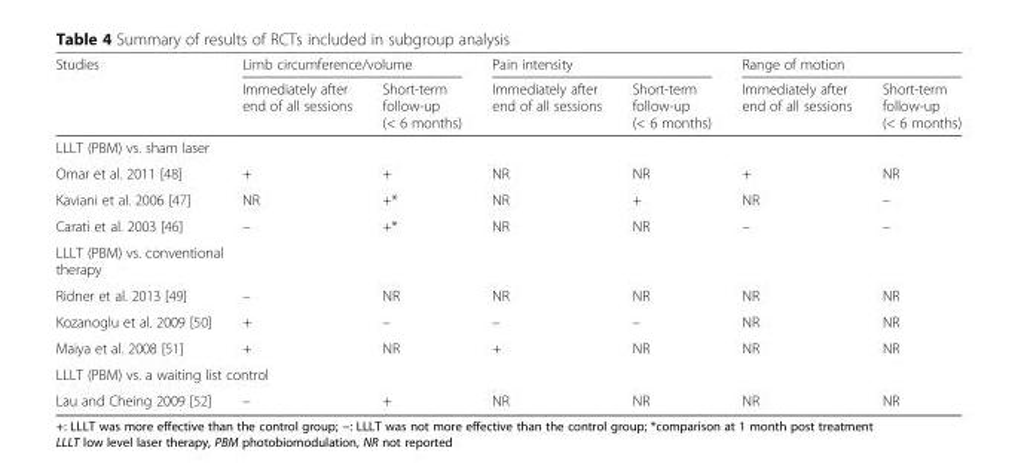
<table><thead><tr><td rowspan="2">Studies</td><td colspan="2">Limb circumference/volume</td><td colspan="2">Pain intensity</td><td colspan="2">Range of motion</td></tr><tr><td>Immediately after end of all sessions</td><td>Short-term follow-up (&lt; 6 months)</td><td>Immediately after end of all sessions</td><td>Short-term follow-up (&lt; 6 months)</td><td>Immediately after end of all sessions</td><td>Short-term follow-up (&lt; 6 months)</td></tr></thead><tbody><tr><td colspan="7">LLLT (PBM) vs. sham laser</td></tr><tr><td>Omar et al. 2011 [48]</td><td>+</td><td>+</td><td>NR</td><td>NR</td><td>+</td><td>NR</td></tr><tr><td>Kaviani et al. 2006 [47]</td><td>NR</td><td>+*</td><td>NR</td><td>+</td><td>NR</td><td>–</td></tr><tr><td>Carati et al. 2003 [46]</td><td>–</td><td>+*</td><td>NR</td><td>NR</td><td>–</td><td>–</td></tr><tr><td colspan="7">LLLT (PBM) vs. conventional therapy</td></tr><tr><td>Ridner et al. 2013 [49]</td><td>–</td><td>NR</td><td>NR</td><td>NR</td><td>NR</td><td>NR</td></tr><tr><td>Kozanoglu et al. 2009 [50]</td><td>+</td><td>–</td><td>–</td><td>–</td><td>NR</td><td>NR</td></tr><tr><td>Maiya et al. 2008 [51]</td><td>+</td><td>NR</td><td>+</td><td>NR</td><td>NR</td><td>NR</td></tr><tr><td colspan="7">LLLT (PBM) vs. a waiting list control</td></tr><tr><td>Lau and Cheing 2009 [52]</td><td>–</td><td>+</td><td>NR</td><td>NR</td><td>NR</td><td>NR</td></tr></tbody></table>